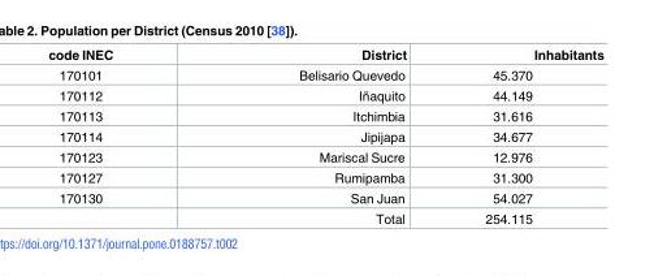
<table><thead><tr><td>code INEC</td><td>District</td><td>Inhabitants</td></tr></thead><tbody><tr><td>170101</td><td>Belisario Quevedo</td><td>45.370</td></tr><tr><td>170112</td><td>Iñaquito</td><td>44.149</td></tr><tr><td>170113</td><td>Itchimbia</td><td>31.616</td></tr><tr><td>170114</td><td>Jipijapa</td><td>34.677</td></tr><tr><td>170123</td><td>Mariscal Sucre</td><td>12.976</td></tr><tr><td>170127</td><td>Rumipamba</td><td>31.300</td></tr><tr><td rowspan="2">170130</td><td>San Juan</td><td>54.027</td></tr><tr><td>Total</td><td>254.115</td></tr></tbody></table>